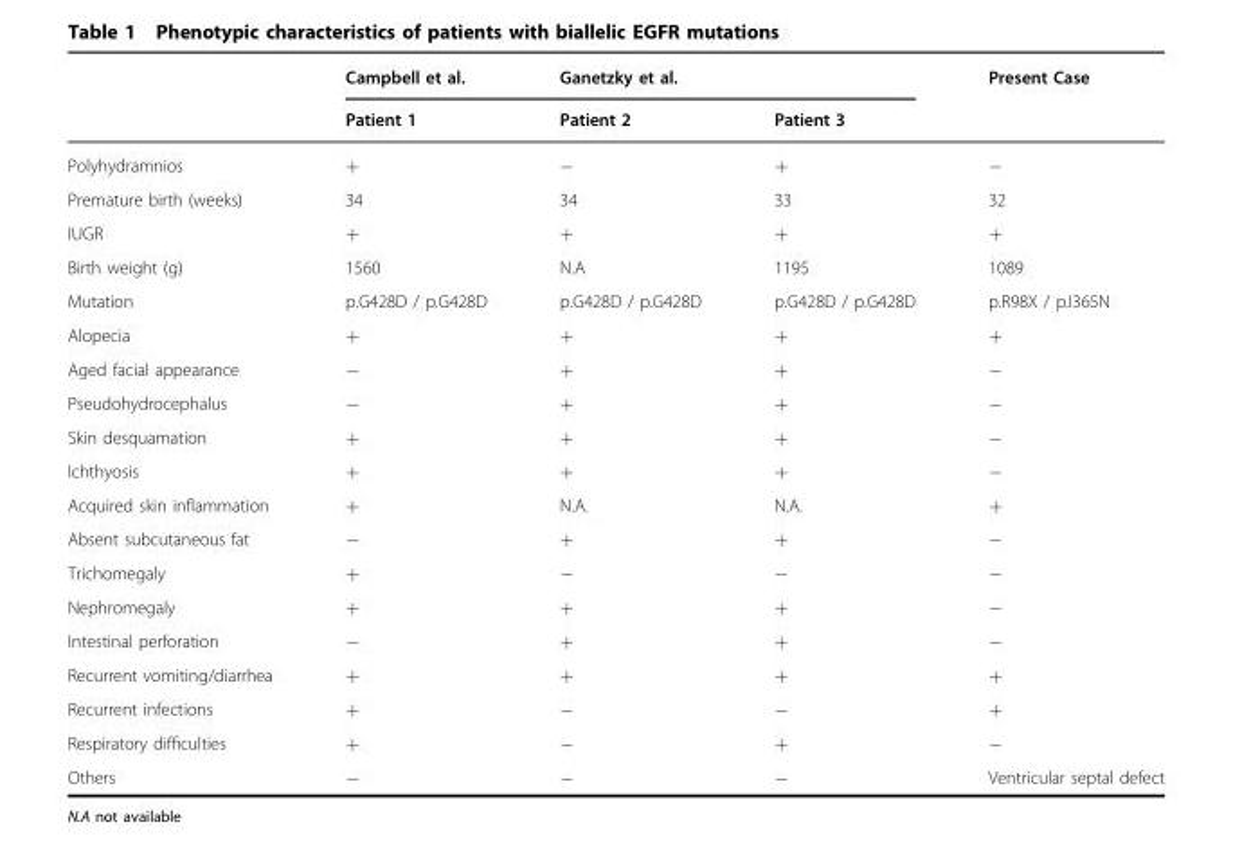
<table><thead><tr><td rowspan="2"></td><td rowspan="2">Campbell et al. Patient 1</td><td colspan="2">Ganetzky et al.</td><td rowspan="2">Present Case</td></tr><tr><td>Patient 2</td><td>Patient 3</td></tr></thead><tbody><tr><td>Polyhydramnios</td><td>+</td><td>−</td><td>+</td><td>−</td></tr><tr><td>Premature birth (weeks)</td><td>34</td><td>34</td><td>33</td><td>32</td></tr><tr><td>IUGR</td><td>+</td><td>+</td><td>+</td><td>+</td></tr><tr><td>Birth weight (g)</td><td>1560</td><td>N.A</td><td>1195</td><td>1089</td></tr><tr><td>Mutation</td><td>p.G428D / p.G428D</td><td>p.G428D / p.G428D</td><td>p.G428D / p.G428D</td><td>p.R98X / p.I365N</td></tr><tr><td>Alopecia</td><td>+</td><td>+</td><td>+</td><td>+</td></tr><tr><td>Aged facial appearance</td><td>−</td><td>+</td><td>+</td><td>−</td></tr><tr><td>Pseudohydrocephalus</td><td>−</td><td>+</td><td>+</td><td>−</td></tr><tr><td>Skin desquamation</td><td>+</td><td>+</td><td>+</td><td>−</td></tr><tr><td>Ichthyosis</td><td>+</td><td>+</td><td>+</td><td>−</td></tr><tr><td>Acquired skin inflammation</td><td>+</td><td>N.A.</td><td>N.A.</td><td>+</td></tr><tr><td>Absent subcutaneous fat</td><td>−</td><td>+</td><td>+</td><td>−</td></tr><tr><td>Trichomegaly</td><td>+</td><td>−</td><td>−</td><td>−</td></tr><tr><td>Nephromegaly</td><td>+</td><td>+</td><td>+</td><td>−</td></tr><tr><td>Intestinal perforation</td><td>−</td><td>+</td><td>+</td><td>−</td></tr><tr><td>Recurrent vomiting/diarrhea</td><td>+</td><td>+</td><td>+</td><td>+</td></tr><tr><td>Recurrent infections</td><td>+</td><td>−</td><td>−</td><td>+</td></tr><tr><td>Respiratory difficulties</td><td>+</td><td>−</td><td>+</td><td>−</td></tr><tr><td>Others</td><td>−</td><td>−</td><td>−</td><td>Ventricular septal defect</td></tr></tbody></table>